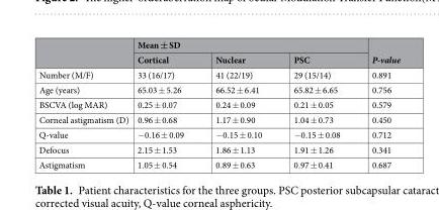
<table><thead><tr><td rowspan="2"></td><td colspan="3">Mean ± SD</td><td rowspan="2">P-value</td></tr><tr><td>Cortical</td><td>Nuclear</td><td>PSC</td></tr></thead><tbody><tr><td>Number (M/F)</td><td>33 (16/17)</td><td>41 (22/19)</td><td>29 (15/14)</td><td>0.891</td></tr><tr><td>Age (years)</td><td>65.03 ± 5.26</td><td>66.52 ± 6.41</td><td>65.82 ± 6.65</td><td>0.756</td></tr><tr><td>BSCVA (log MAR)</td><td>0.25 ± 0.07</td><td>0.24 ± 0.09</td><td>0.21 ± 0.05</td><td>0.579</td></tr><tr><td>Corneal astigmatism (D)</td><td>0.96 ± 0.68</td><td>1.17 ± 0.90</td><td>1.04 ± 0.73</td><td>0.450</td></tr><tr><td>Q-value</td><td>−0.16 ± 0.09</td><td>−0.15 ± 0.10</td><td>−0.15 ± 0.08</td><td>0.712</td></tr><tr><td>Defocus</td><td>2.15 ± 1.53</td><td>1.86 ± 1.13</td><td>1.91 ± 1.26</td><td>0.341</td></tr><tr><td>Astigmatism</td><td>1.05 ± 0.54</td><td>0.89 ± 0.63</td><td>0.97 ± 0.41</td><td>0.687</td></tr></tbody></table>